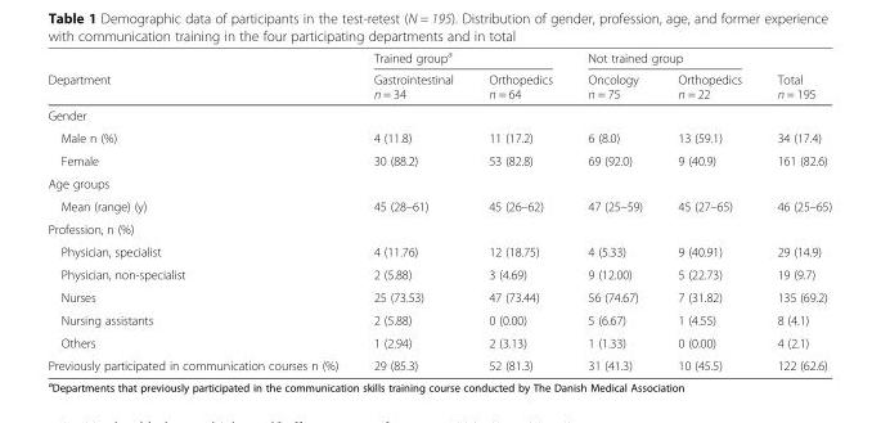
<table><thead><tr><td rowspan="2">Department</td><td colspan="2">Trained group<sup>a</sup></td><td colspan="2">Not trained group</td><td rowspan="2">Total n = 195</td></tr><tr><td>Gastrointestinal n = 34</td><td>Orthopedics n = 64</td><td>Oncology n = 75</td><td>Orthopedics n = 22</td></tr></thead><tbody><tr><td colspan="6">Gender</td></tr><tr><td>Male n (%)</td><td>4 (11.8)</td><td>11 (17.2)</td><td>6 (8.0)</td><td>13 (59.1)</td><td>34 (17.4)</td></tr><tr><td>Female</td><td>30 (88.2)</td><td>53 (82.8)</td><td>69 (92.0)</td><td>9 (40.9)</td><td>161 (82.6)</td></tr><tr><td colspan="6">Age groups</td></tr><tr><td>Mean (range) (y)</td><td>45 (28–61)</td><td>45 (26–62)</td><td>47 (25–59)</td><td>45 (27–65)</td><td>46 (25–65)</td></tr><tr><td colspan="6">Profession, n (%)</td></tr><tr><td>Physician, specialist</td><td>4 (11.76)</td><td>12 (18.75)</td><td>4 (5.33)</td><td>9 (40.91)</td><td>29 (14.9)</td></tr><tr><td>Physician, non-specialist</td><td>2 (5.88)</td><td>3 (4.69)</td><td>9 (12.00)</td><td>5 (22.73)</td><td>19 (9.7)</td></tr><tr><td>Nurses</td><td>25 (73.53)</td><td>47 (73.44)</td><td>56 (74.67)</td><td>7 (31.82)</td><td>135 (69.2)</td></tr><tr><td>Nursing assistants</td><td>2 (5.88)</td><td>0 (0.00)</td><td>5 (6.67)</td><td>1 (4.55)</td><td>8 (4.1)</td></tr><tr><td>Others</td><td>1 (2.94)</td><td>2 (3.13)</td><td>1 (1.33)</td><td>0 (0.00)</td><td>4 (2.1)</td></tr><tr><td>Previously participated in communication courses n (%)</td><td>29 (85.3)</td><td>52 (81.3)</td><td>31 (41.3)</td><td>10 (45.5)</td><td>122 (62.6)</td></tr></tbody></table>